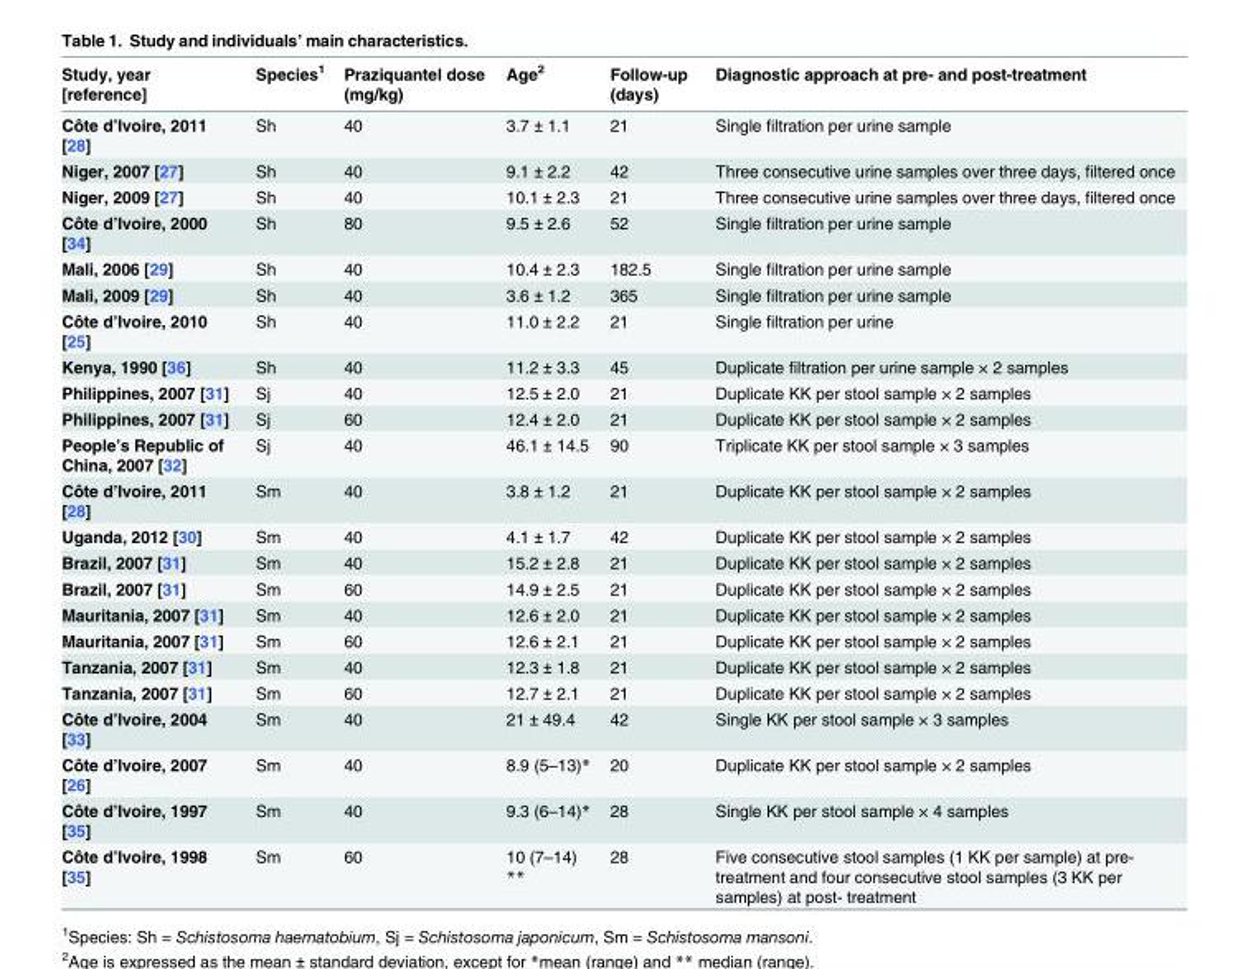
<table><thead><tr><td>Study, year [reference]</td><td>Species<sup>1</sup></td><td>Praziquantel dose (mg/kg)</td><td>Age<sup>2</sup></td><td>Follow-up (days)</td><td>Diagnostic approach at pre- and post-treatment</td></tr></thead><tbody><tr><td>Côte d’Ivoire, 2011 [28]</td><td>Sh</td><td>40</td><td>3.7 ± 1.1</td><td>21</td><td>Single filtration per urine sample</td></tr><tr><td>Niger, 2007 [27]</td><td>Sh</td><td>40</td><td>9.1 ± 2.2</td><td>42</td><td>Three consecutive urine samples over three days, filtered once</td></tr><tr><td>Niger, 2009 [27]</td><td>Sh</td><td>40</td><td>10.1 ± 2.3</td><td>21</td><td>Three consecutive urine samples over three days, filtered once</td></tr><tr><td>Côte d’Ivoire, 2000 [34]</td><td>Sh</td><td>80</td><td>9.5 ± 2.6</td><td>52</td><td>Single filtration per urine sample</td></tr><tr><td>Mali, 2006 [29]</td><td>Sh</td><td>40</td><td>10.4 ± 2.3</td><td>182.5</td><td>Single filtration per urine sample</td></tr><tr><td>Mali, 2009 [29]</td><td>Sh</td><td>40</td><td>3.6 ± 1.2</td><td>365</td><td>Single filtration per urine sample</td></tr><tr><td>Côte d’Ivoire, 2010 [25]</td><td>Sh</td><td>40</td><td>11.0 ± 2.2</td><td>21</td><td>Single filtration per urine</td></tr><tr><td>Kenya, 1990 [36]</td><td>Sh</td><td>40</td><td>11.2 ± 3.3</td><td>45</td><td>Duplicate filtration per urine sample × 2 samples</td></tr><tr><td>Philippines, 2007 [31]</td><td>Sj</td><td>40</td><td>12.5 ± 2.0</td><td>21</td><td>Duplicate KK per stool sample × 2 samples</td></tr><tr><td>Philippines, 2007 [31]</td><td>Sj</td><td>60</td><td>12.4 ± 2.0</td><td>21</td><td>Duplicate KK per stool sample × 2 samples</td></tr><tr><td>People’s Republic of China, 2007 [32]</td><td>Sj</td><td>40</td><td>46.1 ± 14.5</td><td>90</td><td>Triplicate KK per stool sample × 3 samples</td></tr><tr><td>Côte d’Ivoire, 2011 [28]</td><td>Sm</td><td>40</td><td>3.8 ± 1.2</td><td>21</td><td>Duplicate KK per stool sample × 2 samples</td></tr><tr><td>Uganda, 2012 [30]</td><td>Sm</td><td>40</td><td>4.1 ± 1.7</td><td>42</td><td>Duplicate KK per stool sample × 2 samples</td></tr><tr><td>Brazil, 2007 [31]</td><td>Sm</td><td>40</td><td>15.2 ± 2.8</td><td>21</td><td>Duplicate KK per stool sample × 2 samples</td></tr><tr><td>Brazil, 2007 [31]</td><td>Sm</td><td>60</td><td>14.9 ± 2.5</td><td>21</td><td>Duplicate KK per stool sample × 2 samples</td></tr><tr><td>Mauritania, 2007 [31]</td><td>Sm</td><td>40</td><td>12.6 ± 2.0</td><td>21</td><td>Duplicate KK per stool sample × 2 samples</td></tr><tr><td>Mauritania, 2007 [31]</td><td>Sm</td><td>60</td><td>12.6 ± 2.1</td><td>21</td><td>Duplicate KK per stool sample × 2 samples</td></tr><tr><td>Tanzania, 2007 [31]</td><td>Sm</td><td>40</td><td>12.3 ± 1.8</td><td>21</td><td>Duplicate KK per stool sample × 2 samples</td></tr><tr><td>Tanzania, 2007 [31]</td><td>Sm</td><td>60</td><td>12.7 ± 2.1</td><td>21</td><td>Duplicate KK per stool sample × 2 samples</td></tr><tr><td>Côte d’Ivoire, 2004 [33]</td><td>Sm</td><td>40</td><td>21 ± 49.4</td><td>42</td><td>Single KK per stool sample × 3 samples</td></tr><tr><td>Côte d’Ivoire, 2007 [26]</td><td>Sm</td><td>40</td><td>8.9 (5–13)*</td><td>20</td><td>Duplicate KK per stool sample × 2 samples</td></tr><tr><td>Côte d’Ivoire, 1997 [35]</td><td>Sm</td><td>40</td><td>9.3 (6–14)*</td><td>28</td><td>Single KK per stool sample × 4 samples</td></tr><tr><td>Côte d’Ivoire, 1998 [35]</td><td>Sm</td><td>60</td><td>10 (7–14) **</td><td>28</td><td>Five consecutive stool samples (1 KK per sample) at pre- treatment and four consecutive stool samples (3 KK per samples) at post- treatment</td></tr></tbody></table>